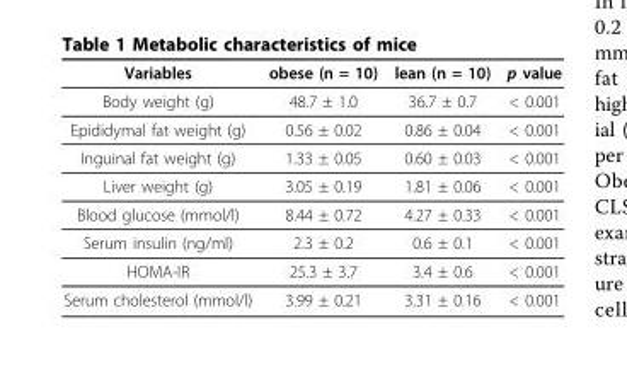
<table><thead><tr><td>Variables</td><td>obese (n = 10)</td><td>lean (n = 10)</td><td>p value</td></tr></thead><tbody><tr><td>Body weight (g)</td><td>48.7 ± 1.0</td><td>36.7 ± 0.7</td><td>&lt; 0.001</td></tr><tr><td>Epididymal fat weight (g)</td><td>0.56 ± 0.02</td><td>0.86 ± 0.04</td><td>&lt; 0.001</td></tr><tr><td>Inguinal fat weight (g)</td><td>1.33 ± 0.05</td><td>0.60 ± 0.03</td><td>&lt; 0.001</td></tr><tr><td>Liver weight (g)</td><td>3.05 ± 0.19</td><td>1.81 ± 0.06</td><td>&lt; 0.001</td></tr><tr><td>Blood glucose (mmol/l)</td><td>8.44 ± 0.72</td><td>4.27 ± 0.33</td><td>&lt; 0.001</td></tr><tr><td>Serum insulin (ng/ml)</td><td>2.3 ± 0.2</td><td>0.6 ± 0.1</td><td>&lt; 0.001</td></tr><tr><td>HOMA-IR</td><td>25.3 ± 3.7</td><td>3.4 ± 0.6</td><td>&lt; 0.001</td></tr><tr><td>Serum cholesterol (mmol/l)</td><td>3.99 ± 0.21</td><td>3.31 ± 0.16</td><td>&lt; 0.001</td></tr></tbody></table>